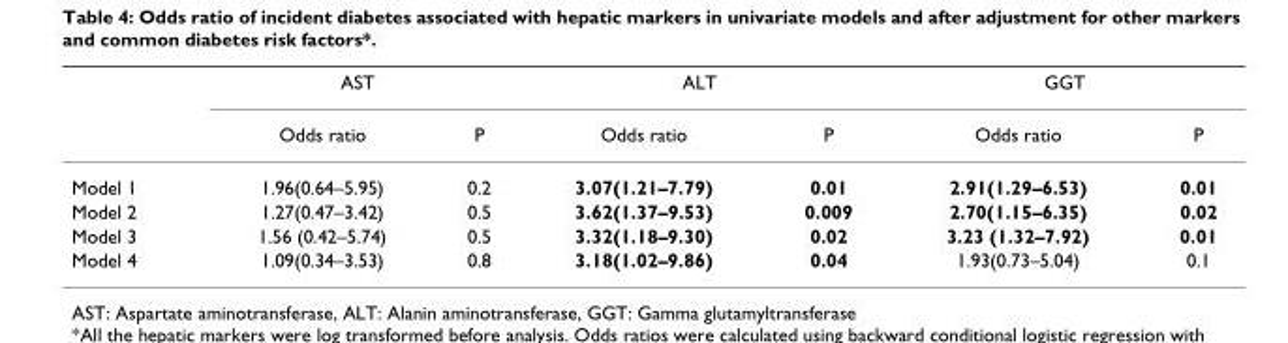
<table><thead><tr><td rowspan="2"></td><td colspan="2">AST</td><td colspan="2">ALT</td><td colspan="2">GGT</td></tr><tr><td>Odds ratio</td><td>P</td><td>Odds ratio</td><td>P</td><td>Odds ratio</td><td>P</td></tr></thead><tbody><tr><td>Model 1</td><td>1.96(0.64–5.95)</td><td>0.2</td><td>3.07(1.21–7.79)</td><td>0.01</td><td>2.91(1.29–6.53)</td><td>0.01</td></tr><tr><td>Model 2</td><td>1.27(0.47–3.42)</td><td>0.5</td><td>3.62(1.37–9.53)</td><td>0.009</td><td>2.70(1.15–6.35)</td><td>0.02</td></tr><tr><td>Model 3</td><td>1.56 (0.42–5.74)</td><td>0.5</td><td>3.32(1.18–9.30)</td><td>0.02</td><td>3.23 (1.32–7.92)</td><td>0.01</td></tr><tr><td>Model 4</td><td>1.09(0.34–3.53)</td><td>0.8</td><td>3.18(1.02–9.86)</td><td>0.04</td><td>1.93(0.73–5.04)</td><td>0.1</td></tr></tbody></table>